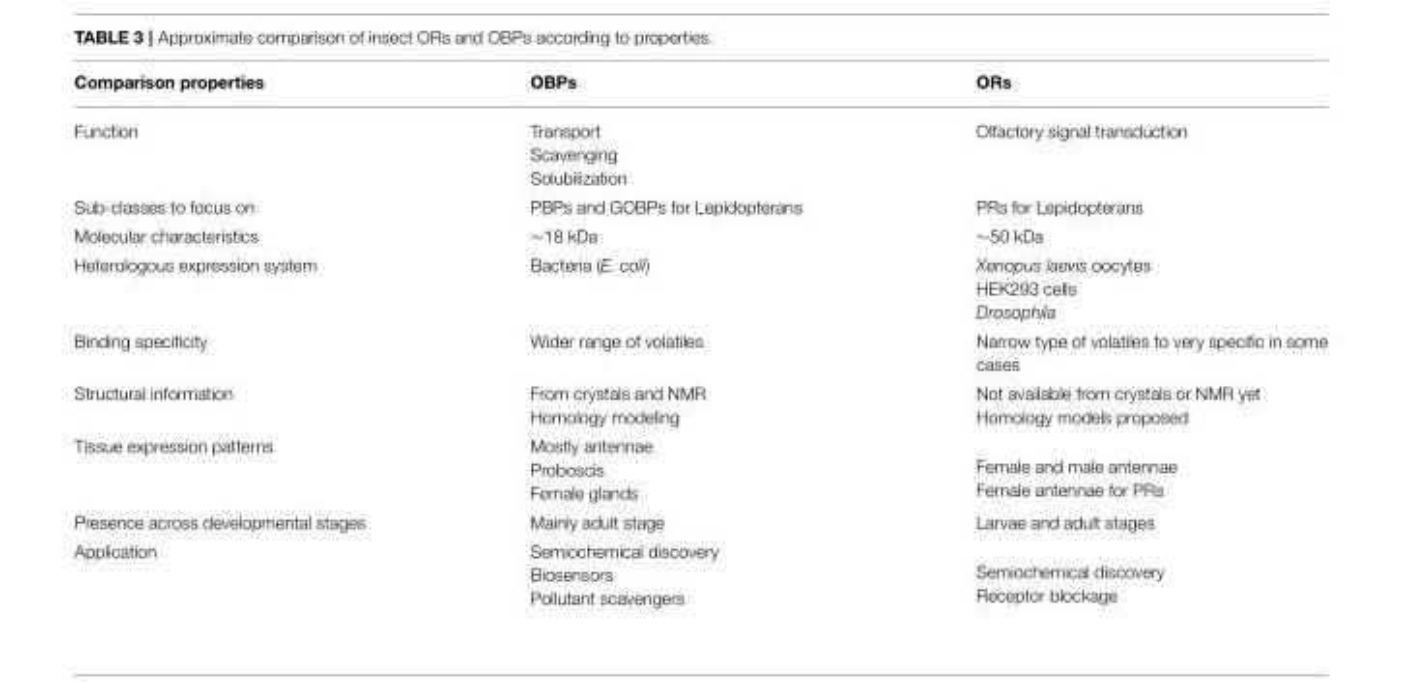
<table><thead><tr><td>Comparison properties</td><td>OBPs</td><td>ORs</td></tr></thead><tbody><tr><td>Function</td><td>Transport Scavenging Solubilization</td><td>Olfactory signal transduction</td></tr><tr><td>Sub-classes to focus on</td><td>PBPs and GOBPs for Lepidopterans</td><td>PRs for Lepidopterans</td></tr><tr><td>Molecular characteristics</td><td>∼18 kDa</td><td>∼50 kDa</td></tr><tr><td>Heterologous expression system</td><td>Bacteria (E. coli)</td><td>Xenopus laevis oocytes HEK293 cells Drosophila</td></tr><tr><td>Binding specificity</td><td>Wider range of volatiles</td><td>Narrow type of volatiles to very specific in some cases</td></tr><tr><td>Structural information</td><td>From crystals and NMR Homology modeling</td><td>Not available from crystals or NMR yet Homology models proposed</td></tr><tr><td>Tissue expression patterns</td><td>Mostly antennae Proboscis Female glands</td><td>Female and male antennae Female antennae for PRs</td></tr><tr><td>Presence across developmental stages</td><td>Mainly adult stage</td><td>Larvae and adult stages</td></tr><tr><td>Application</td><td>Semiochemical discovery Biosensors Pollutant scavengers</td><td>Semiochemical discovery Receptor blockage</td></tr></tbody></table>